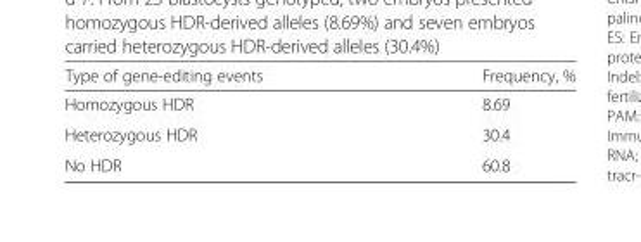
<table><thead><tr><td>Type of gene-editing events</td><td>Frequency, %</td></tr></thead><tbody><tr><td>Homozygous HDR</td><td>8.69</td></tr><tr><td>Heterozygous HDR</td><td>30.4</td></tr><tr><td>No HDR</td><td>60.8</td></tr></tbody></table>